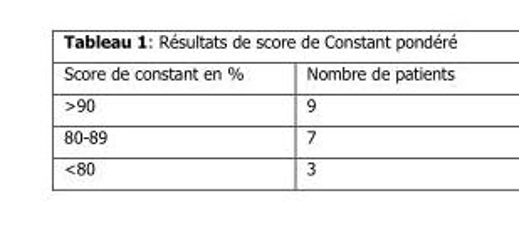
<table><thead><tr><td>Score de constant en %</td><td>Nombre de patients</td></tr></thead><tbody><tr><td>&gt;90</td><td>9</td></tr><tr><td>80-89</td><td>7</td></tr><tr><td>&lt;80</td><td>3</td></tr></tbody></table>